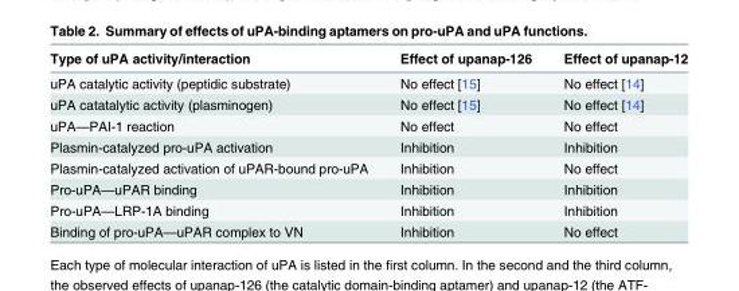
<table><thead><tr><td>Type of uPA activity/interaction</td><td>Effect of upanap-126</td><td>Effect of upanap-12</td></tr></thead><tbody><tr><td>uPA catalytic activity (peptidic substrate)</td><td>No effect [15]</td><td>No effect [14]</td></tr><tr><td>uPA catatalytic activity (plasminogen)</td><td>No effect [15]</td><td>No effect [14]</td></tr><tr><td>uPA—PAI-1 reaction</td><td>No effect</td><td>No effect</td></tr><tr><td>Plasmin-catalyzed pro-uPA activation</td><td>Inhibition</td><td>Inhibition</td></tr><tr><td>Plasmin-catalyzed activation of uPAR-bound pro-uPA</td><td>Inhibition</td><td>No effect</td></tr><tr><td>Pro-uPA—uPAR binding</td><td>Inhibition</td><td>Inhibition</td></tr><tr><td>Pro-uPA—LRP-1A binding</td><td>Inhibition</td><td>Inhibition</td></tr><tr><td>Binding of pro-uPA—uPAR complex to VN</td><td>Inhibition</td><td>No effect</td></tr></tbody></table>